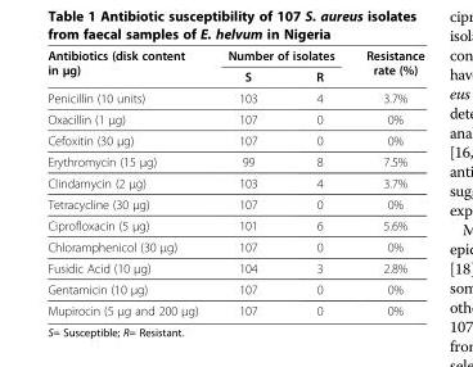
<table><thead><tr><td rowspan="2">Antibiotics (disk content in μg)</td><td colspan="2">Number of isolates</td><td rowspan="2">Resistance rate (%)</td></tr><tr><td>S</td><td>R</td></tr></thead><tbody><tr><td>Penicillin (10 units)</td><td>103</td><td>4</td><td>3.7%</td></tr><tr><td>Oxacillin (1 μg)</td><td>107</td><td>0</td><td>0%</td></tr><tr><td>Cefoxitin (30 μg)</td><td>107</td><td>0</td><td>0%</td></tr><tr><td>Erythromycin (15 μg)</td><td>99</td><td>8</td><td>7.5%</td></tr><tr><td>Clindamycin (2 μg)</td><td>103</td><td>4</td><td>3.7%</td></tr><tr><td>Tetracycline (30 μg)</td><td>107</td><td>0</td><td>0%</td></tr><tr><td>Ciprofloxacin (5 μg)</td><td>101</td><td>6</td><td>5.6%</td></tr><tr><td>Chloramphenicol (30 μg)</td><td>107</td><td>0</td><td>0%</td></tr><tr><td>Fusidic Acid (10 μg)</td><td>104</td><td>3</td><td>2.8%</td></tr><tr><td>Gentamicin (10 μg)</td><td>107</td><td>0</td><td>0%</td></tr><tr><td>Mupirocin (5 μg and 200 μg)</td><td>107</td><td>0</td><td>0%</td></tr></tbody></table>